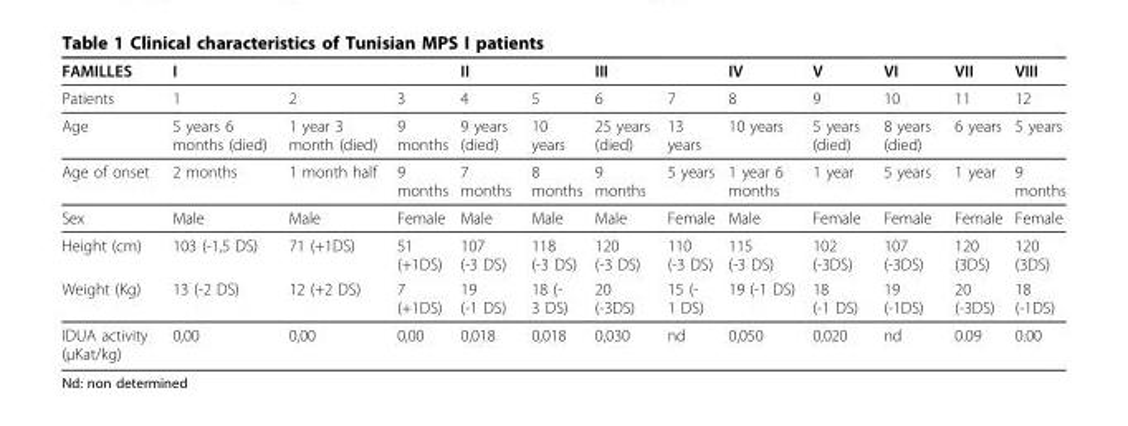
<table><thead><tr><td rowspan="2">FAMILLES Patients</td><td colspan="3">I</td><td colspan="2">II</td><td colspan="2">III</td><td rowspan="2">IV 8</td><td rowspan="2">V 9</td><td rowspan="2">VI 10</td><td rowspan="2">VII 11</td><td rowspan="2">VIII 12</td></tr><tr><td>1</td><td>2</td><td>3</td><td>4</td><td>5</td><td>6</td><td>7</td></tr></thead><tbody><tr><td>Age</td><td>5 years 6 months (died)</td><td>1 year 3 month (died)</td><td>9 months</td><td>9 years (died)</td><td>10 years</td><td>25 years (died)</td><td>13 years</td><td>10 years</td><td>5 years (died)</td><td>8 years (died)</td><td>6 years</td><td>5 years</td></tr><tr><td>Age of onset</td><td>2 months</td><td>1 month half</td><td>9 months</td><td>7 months</td><td>8 months</td><td>9 months</td><td>5 years</td><td>1 year 6 months</td><td>1 year</td><td>5 years</td><td>1 year</td><td>9 months</td></tr><tr><td>Sex</td><td>Male</td><td>Male</td><td>Female</td><td>Male</td><td>Male</td><td>Male</td><td>Female</td><td>Male</td><td>Female</td><td>Female</td><td>Female</td><td>Female</td></tr><tr><td>Height (cm)</td><td>103 (-1,5 DS)</td><td>71 (+1DS)</td><td>51 (+1DS)</td><td>107 (-3 DS)</td><td>118 (-3 DS)</td><td>120 (-3 DS)</td><td>110 (-3 DS)</td><td>115 (-3 DS)</td><td>102 (-3DS)</td><td>107 (-3DS)</td><td>120 (3DS)</td><td>120 (3DS)</td></tr><tr><td>Weight (Kg)</td><td>13 (-2 DS)</td><td>12 (+2 DS)</td><td>7 (+1DS)</td><td>19 (-1 DS)</td><td>18 (- 3 DS)</td><td>20 (-3DS)</td><td>15 (- 1 DS)</td><td>19 (-1 DS)</td><td>18 (-1 DS)</td><td>19 (-1DS)</td><td>20 (-3DS)</td><td>18 (-1DS)</td></tr><tr><td>IDUA activity (μKat/kg)</td><td>0,00</td><td>0,00</td><td>0,00</td><td>0,018</td><td>0,018</td><td>0,030</td><td>nd</td><td>0,050</td><td>0,020</td><td>nd</td><td>0.09</td><td>0.00</td></tr></tbody></table>